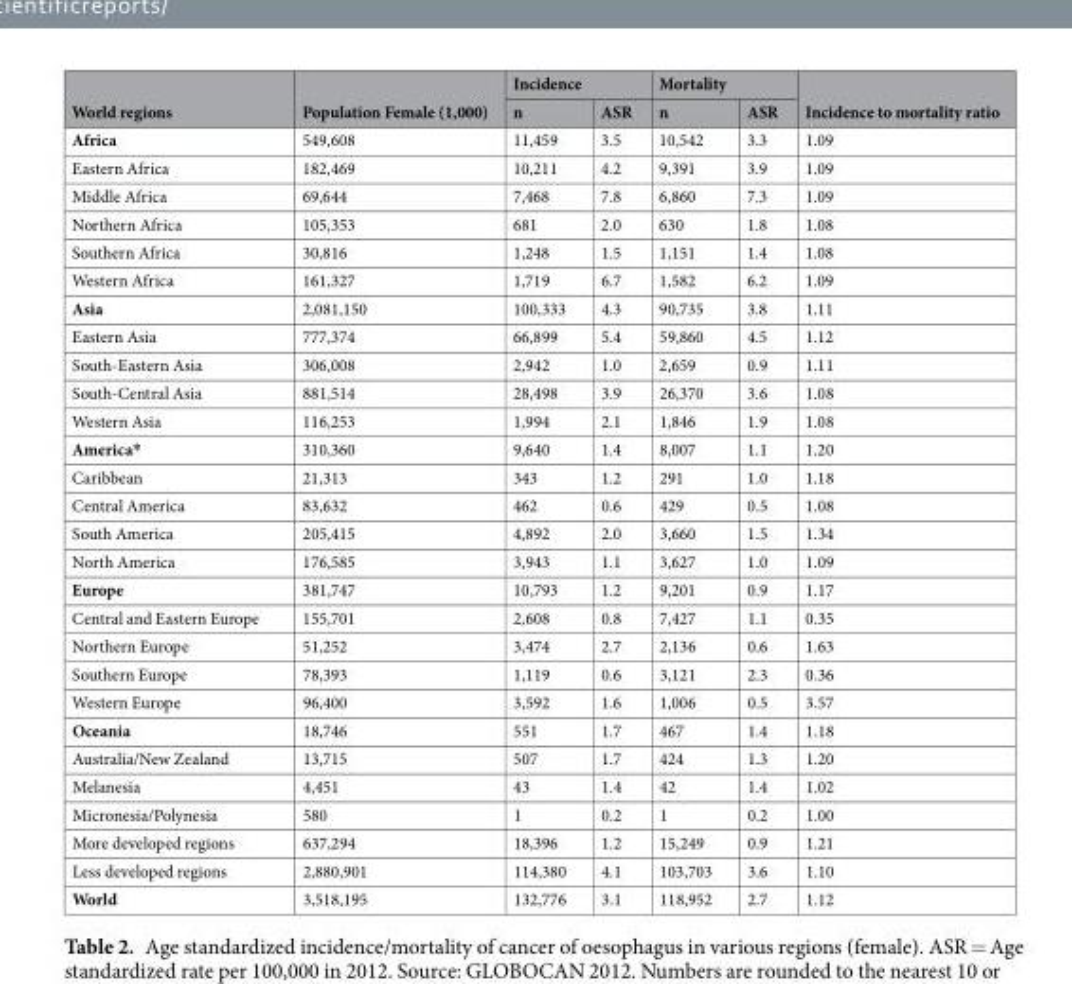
<table><thead><tr><td rowspan="2">World regions</td><td rowspan="2">Population Female (1,000)</td><td colspan="2">Incidence</td><td colspan="2">Mortality</td><td rowspan="2">Incidence to mortality ratio</td></tr><tr><td>n</td><td>ASR</td><td>n</td><td>ASR</td></tr></thead><tbody><tr><td>Africa</td><td>549,608</td><td>11,459</td><td>3.5</td><td>10,542</td><td>3.3</td><td>1.09</td></tr><tr><td>Eastern Africa</td><td>182,469</td><td>10,211</td><td>4.2</td><td>9,391</td><td>3.9</td><td>1.09</td></tr><tr><td>Middle Africa</td><td>69,644</td><td>7,468</td><td>7.8</td><td>6,860</td><td>7.3</td><td>1.09</td></tr><tr><td>Northern Africa</td><td>105,353</td><td>681</td><td>2.0</td><td>630</td><td>1.8</td><td>1.08</td></tr><tr><td>Southern Africa</td><td>30,816</td><td>1,248</td><td>1.5</td><td>1,151</td><td>1.4</td><td>1.08</td></tr><tr><td>Western Africa</td><td>161,327</td><td>1,719</td><td>6.7</td><td>1,582</td><td>6.2</td><td>1.09</td></tr><tr><td>Asia</td><td>2,081,150</td><td>100,333</td><td>4.3</td><td>90,735</td><td>3.8</td><td>1.11</td></tr><tr><td>Eastern Asia</td><td>777,374</td><td>66,899</td><td>5.4</td><td>59,860</td><td>4.5</td><td>1.12</td></tr><tr><td>South-Eastern Asia</td><td>306,008</td><td>2,942</td><td>1.0</td><td>2,659</td><td>0.9</td><td>1.11</td></tr><tr><td>South-Central Asia</td><td>881,514</td><td>28,498</td><td>3.9</td><td>26,370</td><td>3.6</td><td>1.08</td></tr><tr><td>Western Asia</td><td>116,253</td><td>1,994</td><td>2.1</td><td>1,846</td><td>1.9</td><td>1.08</td></tr><tr><td>America*</td><td>310,360</td><td>9,640</td><td>1.4</td><td>8,007</td><td>1.1</td><td>1.20</td></tr><tr><td>Caribbean</td><td>21,313</td><td>343</td><td>1.2</td><td>291</td><td>1.0</td><td>1.18</td></tr><tr><td>Central America</td><td>83,632</td><td>462</td><td>0.6</td><td>429</td><td>0.5</td><td>1.08</td></tr><tr><td>South America</td><td>205,415</td><td>4,892</td><td>2.0</td><td>3,660</td><td>1.5</td><td>1.34</td></tr><tr><td>North America</td><td>176,585</td><td>3,943</td><td>1.1</td><td>3,627</td><td>1.0</td><td>1.09</td></tr><tr><td>Europe</td><td>381,747</td><td>10,793</td><td>1.2</td><td>9,201</td><td>0.9</td><td>1.17</td></tr><tr><td>Central and Eastern Europe</td><td>155,701</td><td>2,608</td><td>0.8</td><td>7,427</td><td>1.1</td><td>0.35</td></tr><tr><td>Northern Europe</td><td>51,252</td><td>3,474</td><td>2.7</td><td>2,136</td><td>0.6</td><td>1.63</td></tr><tr><td>Southern Europe</td><td>78,393</td><td>1,119</td><td>0.6</td><td>3,121</td><td>2.3</td><td>0.36</td></tr><tr><td>Western Europe</td><td>96,400</td><td>3,592</td><td>1.6</td><td>1,006</td><td>0.5</td><td>3.57</td></tr><tr><td>Oceania</td><td>18,746</td><td>551</td><td>1.7</td><td>467</td><td>1.4</td><td>1.18</td></tr><tr><td>Australia/New Zealand</td><td>13,715</td><td>507</td><td>1.7</td><td>424</td><td>1.3</td><td>1.20</td></tr><tr><td>Melanesia</td><td>4,451</td><td>43</td><td>1.4</td><td>42</td><td>1.4</td><td>1.02</td></tr><tr><td>Micronesia/Polynesia</td><td>580</td><td>1</td><td>0.2</td><td>1</td><td>0.2</td><td>1.00</td></tr><tr><td>More developed regions</td><td>637,294</td><td>18,396</td><td>1.2</td><td>15,249</td><td>0.9</td><td>1.21</td></tr><tr><td>Less developed regions</td><td>2,880,901</td><td>114,380</td><td>4.1</td><td>103,703</td><td>3.6</td><td>1.10</td></tr><tr><td>World</td><td>3,518,195</td><td>132,776</td><td>3.1</td><td>118,952</td><td>2.7</td><td>1.12</td></tr></tbody></table>